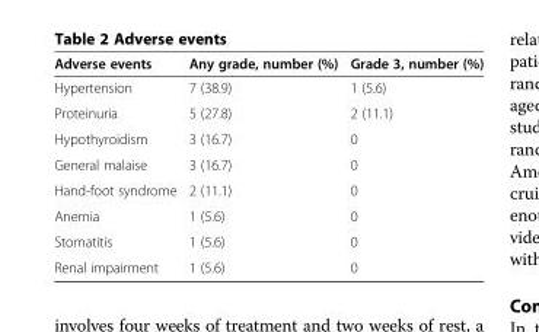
<table><thead><tr><td>Adverse events</td><td>Any grade, number (%)</td><td>Grade 3, number (%)</td></tr></thead><tbody><tr><td>Hypertension</td><td>7 (38.9)</td><td>1 (5.6)</td></tr><tr><td>Proteinuria</td><td>5 (27.8)</td><td>2 (11.1)</td></tr><tr><td>Hypothyroidism</td><td>3 (16.7)</td><td>0</td></tr><tr><td>General malaise</td><td>3 (16.7)</td><td>0</td></tr><tr><td>Hand-foot syndrome</td><td>2 (11.1)</td><td>0</td></tr><tr><td>Anemia</td><td>1 (5.6)</td><td>0</td></tr><tr><td>Stomatitis</td><td>1 (5.6)</td><td>0</td></tr><tr><td>Renal impairment</td><td>1 (5.6)</td><td>0</td></tr></tbody></table>